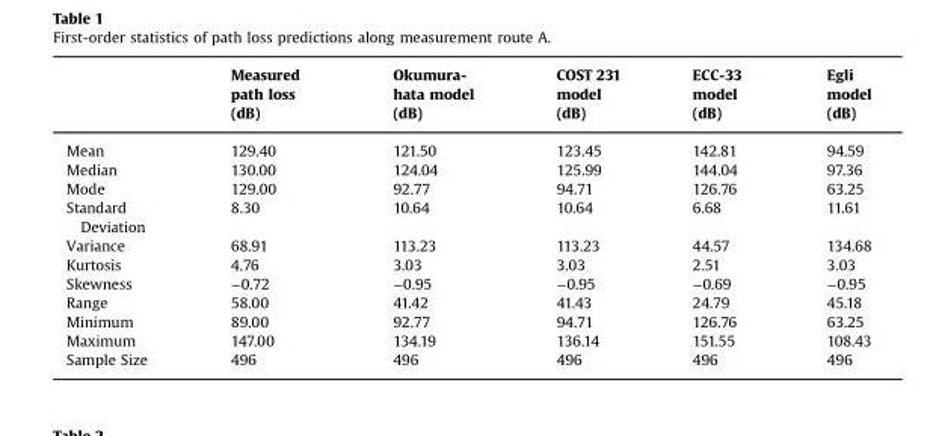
<table><thead><tr><td></td><td>Measured path loss (dB)</td><td>Okumura- hata model (dB)</td><td>COST 231 model (dB)</td><td>ECC-33 model (dB)</td><td>Egli model (dB)</td></tr></thead><tbody><tr><td>Mean</td><td>129.40</td><td>121.50</td><td>123.45</td><td>142.81</td><td>94.59</td></tr><tr><td>Median</td><td>130.00</td><td>124.04</td><td>125.99</td><td>144.04</td><td>97.36</td></tr><tr><td>Mode</td><td>129.00</td><td>92.77</td><td>94.71</td><td>126.76</td><td>63.25</td></tr><tr><td>Standard Deviation</td><td>8.30</td><td>10.64</td><td>10.64</td><td>6.68</td><td>11.61</td></tr><tr><td>Variance</td><td>68.91</td><td>113.23</td><td>113.23</td><td>44.57</td><td>134.68</td></tr><tr><td>Kurtosis</td><td>4.76</td><td>3.03</td><td>3.03</td><td>2.51</td><td>3.03</td></tr><tr><td>Skewness</td><td>−0.72</td><td>−0.95</td><td>−0.95</td><td>−0.69</td><td>−0.95</td></tr><tr><td>Range</td><td>58.00</td><td>41.42</td><td>41.43</td><td>24.79</td><td>45.18</td></tr><tr><td>Minimum</td><td>89.00</td><td>92.77</td><td>94.71</td><td>126.76</td><td>63.25</td></tr><tr><td>Maximum</td><td>147.00</td><td>134.19</td><td>136.14</td><td>151.55</td><td>108.43</td></tr><tr><td>Sample Size</td><td>496</td><td>496</td><td>496</td><td>496</td><td>496</td></tr></tbody></table>